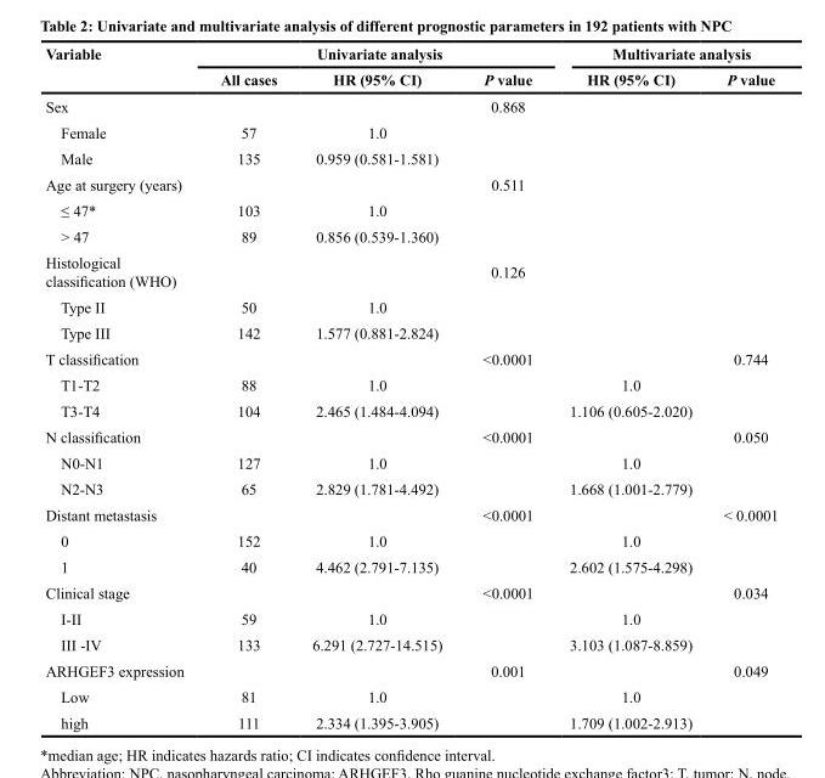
<table><thead><tr><td rowspan="2">Variable</td><td colspan="3">Univariate analysis</td><td colspan="2">Multivariate analysis</td></tr><tr><td>All cases</td><td>HR (95% CI)</td><td>P value</td><td>HR (95% CI)</td><td>P value</td></tr></thead><tbody><tr><td>Sex</td><td></td><td></td><td>0.868</td><td></td><td></td></tr><tr><td>Female</td><td>57</td><td>1.0</td><td></td><td></td><td></td></tr><tr><td>Male</td><td>135</td><td>0.959 (0.581-1.581)</td><td></td><td></td><td></td></tr><tr><td>Age at surgery (years)</td><td></td><td></td><td>0.511</td><td></td><td></td></tr><tr><td>≤ 47*</td><td>103</td><td>1.0</td><td></td><td></td><td></td></tr><tr><td>&gt; 47</td><td>89</td><td>0.856 (0.539-1.360)</td><td></td><td></td><td></td></tr><tr><td>Histological classification (WHO)</td><td></td><td></td><td>0.126</td><td></td><td></td></tr><tr><td>Type II</td><td>50</td><td>1.0</td><td></td><td></td><td></td></tr><tr><td>Type III</td><td>142</td><td>1.577 (0.881-2.824)</td><td></td><td></td><td></td></tr><tr><td>T classification</td><td></td><td></td><td>&lt;0.0001</td><td></td><td>0.744</td></tr><tr><td>T1-T2</td><td>88</td><td>1.0</td><td></td><td>1.0</td><td></td></tr><tr><td>T3-T4</td><td>104</td><td>2.465 (1.484-4.094)</td><td></td><td>1.106 (0.605-2.020)</td><td></td></tr><tr><td>N classification</td><td></td><td></td><td>&lt;0.0001</td><td></td><td>0.050</td></tr><tr><td>N0-N1</td><td>127</td><td>1.0</td><td></td><td>1.0</td><td></td></tr><tr><td>N2-N3</td><td>65</td><td>2.829 (1.781-4.492)</td><td></td><td>1.668 (1.001-2.779)</td><td></td></tr><tr><td>Distant metastasis</td><td></td><td></td><td>&lt;0.0001</td><td></td><td>&lt; 0.0001</td></tr><tr><td>0</td><td>152</td><td>1.0</td><td></td><td>1.0</td><td></td></tr><tr><td>1</td><td>40</td><td>4.462 (2.791-7.135)</td><td></td><td>2.602 (1.575-4.298)</td><td></td></tr><tr><td>Clinical stage</td><td></td><td></td><td>&lt;0.0001</td><td></td><td>0.034</td></tr><tr><td>I-II</td><td>59</td><td>1.0</td><td></td><td>1.0</td><td></td></tr><tr><td>III -IV</td><td>133</td><td>6.291 (2.727-14.515)</td><td></td><td>3.103 (1.087-8.859)</td><td></td></tr><tr><td>ARHGEF3 expression</td><td></td><td></td><td>0.001</td><td></td><td>0.049</td></tr><tr><td>Low</td><td>81</td><td>1.0</td><td></td><td>1.0</td><td></td></tr><tr><td>high</td><td>111</td><td>2.334 (1.395-3.905)</td><td></td><td>1.709 (1.002-2.913)</td><td></td></tr></tbody></table>